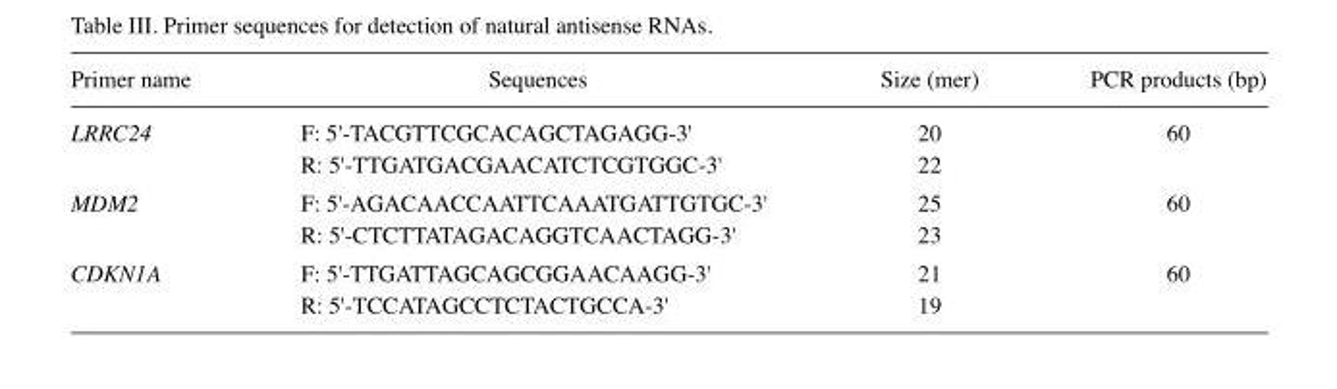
<table><thead><tr><td>Primer name</td><td>Sequences</td><td>Size (mer)</td><td>PCR products (bp)</td></tr></thead><tbody><tr><td rowspan="2">LRRC24</td><td>F: 5&#x27;-TACGTTCGCACAGCTAGAGG-3&#x27;</td><td>20</td><td>60</td></tr><tr><td>R: 5&#x27;-TTGATGACGAACATCTCGTGGC-3&#x27;</td><td>22</td><td></td></tr><tr><td rowspan="2">MDM2</td><td>F: 5&#x27;-AGACAACCAATTCAAATGATTGTGC-3&#x27;</td><td>25</td><td>60</td></tr><tr><td>R: 5&#x27;-CTCTTATAGACAGGTCAACTAGG-3&#x27;</td><td>23</td><td></td></tr><tr><td rowspan="2">CDKN1A</td><td>F: 5&#x27;-TTGATTAGCAGCGGAACAAGG-3&#x27;</td><td>21</td><td>60</td></tr><tr><td>R: 5&#x27;-TCCATAGCCTCTACTGCCA-3&#x27;</td><td>19</td><td></td></tr></tbody></table>